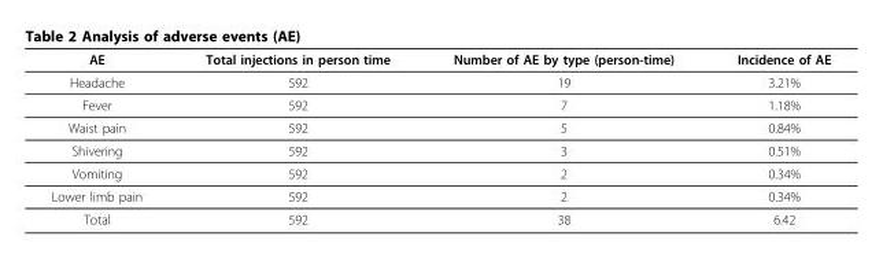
<table><thead><tr><td>AE</td><td>Total injections in person time</td><td>Number of AE by type (person-time)</td><td>Incidence of AE</td></tr></thead><tbody><tr><td>Headache</td><td>592</td><td>19</td><td>3.21%</td></tr><tr><td>Fever</td><td>592</td><td>7</td><td>1.18%</td></tr><tr><td>Waist pain</td><td>592</td><td>5</td><td>0.84%</td></tr><tr><td>Shivering</td><td>592</td><td>3</td><td>0.51%</td></tr><tr><td>Vomiting</td><td>592</td><td>2</td><td>0.34%</td></tr><tr><td>Lower limb pain</td><td>592</td><td>2</td><td>0.34%</td></tr><tr><td>Total</td><td>592</td><td>38</td><td>6.42</td></tr></tbody></table>